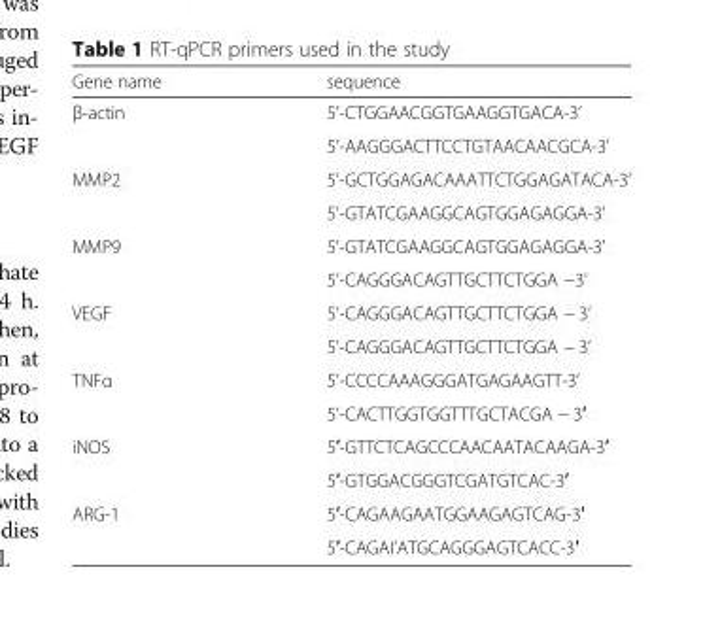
<table><thead><tr><td>Gene name</td><td>sequence</td></tr></thead><tbody><tr><td rowspan="2">β-actin</td><td>5’-CTGGAACGGTGAAGGTGACA-3’</td></tr><tr><td>5’-AAGGGACTTCCTGTAACAACGCA-3’</td></tr><tr><td rowspan="2">MMP2</td><td>5’-GCTGGAGACAAATTCTGGAGATACA-3’</td></tr><tr><td>5’-GTATCGAAGGCAGTGGAGAGGA-3’</td></tr><tr><td rowspan="2">MMP9</td><td>5’-GTATCGAAGGCAGTGGAGAGGA-3’</td></tr><tr><td>5’-CAGGGACAGTTGCTTCTGGA −3’</td></tr><tr><td rowspan="2">VEGF</td><td>5’-CAGGGACAGTTGCTTCTGGA − 3’</td></tr><tr><td>5’-CAGGGACAGTTGCTTCTGGA − 3’</td></tr><tr><td rowspan="2">TNFα</td><td>5’-CCCCAAAGGGATGAGAAGTT-3’</td></tr><tr><td>5’-CACTTGGTGGTTTGCTACGA − 3′</td></tr><tr><td rowspan="2">iNOS</td><td>5′-GTTCTCAGCCCAACAATACAAGA-3′</td></tr><tr><td>5′-GTGGACGGGTCGATGTCAC-3′</td></tr><tr><td rowspan="2">ARG-1</td><td>5′-CAGAAGAATGGAAGAGTCAG-3′</td></tr><tr><td>5′-CAGAI’ATGCAGGGAGTCACC-3′</td></tr></tbody></table>